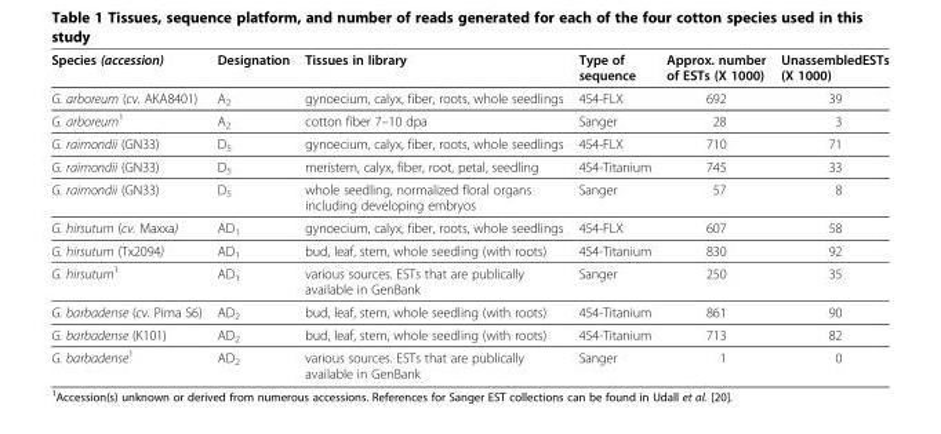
<table><thead><tr><td>Species (accession)</td><td>Designation</td><td>Tissues in library</td><td>Type of sequence</td><td>Approx. number of ESTs (X 1000)</td><td>UnassembledESTs (X 1000)</td></tr></thead><tbody><tr><td>G. arboreum (cv. AKA8401)</td><td>A<sub>2</sub></td><td>gynoecium, calyx, fiber, roots, whole seedlings</td><td>454-FLX</td><td>692</td><td>39</td></tr><tr><td>G. arboreum<sup>1</sup></td><td>A<sub>2</sub></td><td>cotton fiber 7–10 dpa</td><td>Sanger</td><td>28</td><td>3</td></tr><tr><td>G. raimondii (GN33)</td><td>D<sub>5</sub></td><td>gynoecium, calyx, fiber, roots, whole seedlings</td><td>454-FLX</td><td>710</td><td>71</td></tr><tr><td>G. raimondii (GN33)</td><td>D<sub>5</sub></td><td>meristem, calyx, fiber, root, petal, seedling</td><td>454-Titanium</td><td>745</td><td>33</td></tr><tr><td>G. raimondii (GN33)</td><td>D<sub>5</sub></td><td>whole seedling, normalized floral organs including developing embryos</td><td>Sanger</td><td>57</td><td>8</td></tr><tr><td>G. hirsutum (cv. Maxxa)</td><td>AD<sub>1</sub></td><td>gynoecium, calyx, fiber, roots, whole seedlings</td><td>454-FLX</td><td>607</td><td>58</td></tr><tr><td>G. hirsutum (Tx2094)</td><td>AD<sub>1</sub></td><td>bud, leaf, stem, whole seedling (with roots)</td><td>454-Titanium</td><td>830</td><td>92</td></tr><tr><td>G. hirsutum<sup>1</sup></td><td>AD<sub>1</sub></td><td>various sources. ESTs that are publically available in GenBank</td><td>Sanger</td><td>250</td><td>35</td></tr><tr><td>G. barbadense (cv. Pima S6)</td><td>AD<sub>2</sub></td><td>bud, leaf, stem, whole seedling (with roots)</td><td>454-Titanium</td><td>861</td><td>90</td></tr><tr><td>G. barbadense (K101)</td><td>AD<sub>2</sub></td><td>bud, leaf, stem, whole seedling (with roots)</td><td>454-Titanium</td><td>713</td><td>82</td></tr><tr><td>G. barbadense<sup>1</sup></td><td>AD<sub>2</sub></td><td>various sources. ESTs that are publically available in GenBank</td><td>Sanger</td><td>1</td><td>0</td></tr></tbody></table>